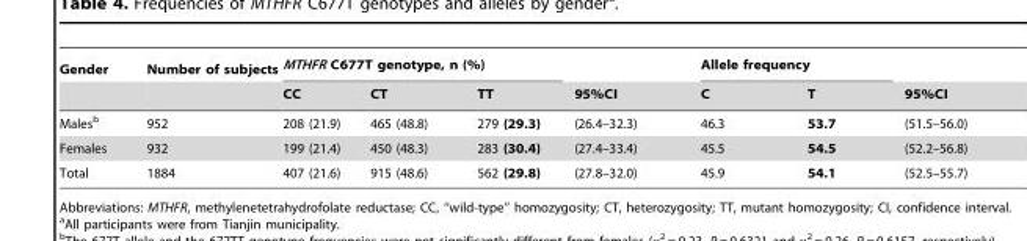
<table><thead><tr><td rowspan="2">Gender</td><td rowspan="2">Number of subjects</td><td colspan="3">MTHFR C677T genotype, n (%)</td><td rowspan="2">95%CI</td><td colspan="2">Allele frequency</td><td rowspan="2">95%CI</td></tr><tr><td>CC</td><td>CT</td><td>TT</td><td>C</td><td>T</td></tr></thead><tbody><tr><td>Males<sup>b</sup></td><td>952</td><td>208 (21.9)</td><td>465 (48.8)</td><td>279 (29.3)</td><td>(26.4–32.3)</td><td>46.3</td><td>53.7</td><td>(51.5–56.0)</td></tr><tr><td>Females</td><td>932</td><td>199 (21.4)</td><td>450 (48.3)</td><td>283 (30.4)</td><td>(27.4–33.4)</td><td>45.5</td><td>54.5</td><td>(52.2–56.8)</td></tr><tr><td>Total</td><td>1884</td><td>407 (21.6)</td><td>915 (48.6)</td><td>562 (29.8)</td><td>(27.8–32.0)</td><td>45.9</td><td>54.1</td><td>(52.5–55.7)</td></tr></tbody></table>